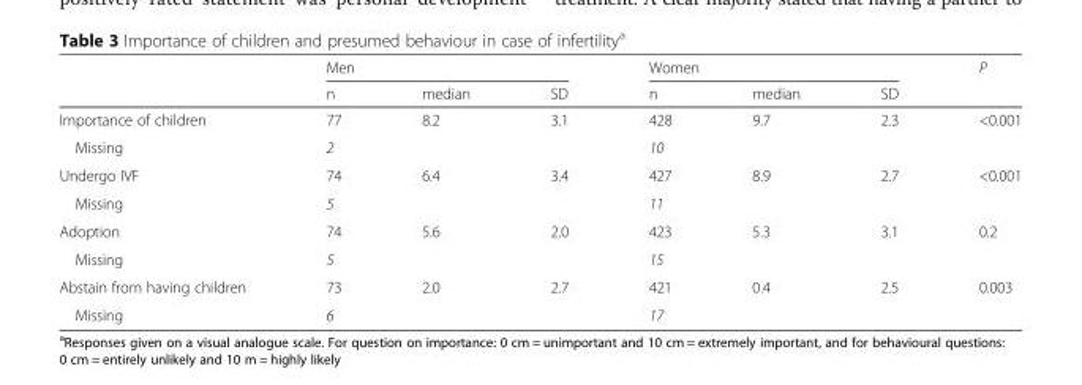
<table><thead><tr><td rowspan="2"></td><td colspan="3">Men</td><td colspan="3">Women</td><td rowspan="2">P</td></tr><tr><td>n</td><td>median</td><td>SD</td><td>n</td><td>median</td><td>SD</td></tr></thead><tbody><tr><td>Importance of children</td><td>77</td><td>8.2</td><td>3.1</td><td>428</td><td>9.7</td><td>2.3</td><td>&lt;0.001</td></tr><tr><td>Missing</td><td>2</td><td></td><td></td><td>10</td><td></td><td></td><td></td></tr><tr><td>Undergo IVF</td><td>74</td><td>6.4</td><td>3.4</td><td>427</td><td>8.9</td><td>2.7</td><td>&lt;0.001</td></tr><tr><td>Missing</td><td>5</td><td></td><td></td><td>11</td><td></td><td></td><td></td></tr><tr><td>Adoption</td><td>74</td><td>5.6</td><td>2.0</td><td>423</td><td>5.3</td><td>3.1</td><td>0.2</td></tr><tr><td>Missing</td><td>5</td><td></td><td></td><td>15</td><td></td><td></td><td></td></tr><tr><td>Abstain from having children</td><td>73</td><td>2.0</td><td>2.7</td><td>421</td><td>0.4</td><td>2.5</td><td>0.003</td></tr><tr><td>Missing</td><td>6</td><td></td><td></td><td>17</td><td></td><td></td><td></td></tr></tbody></table>